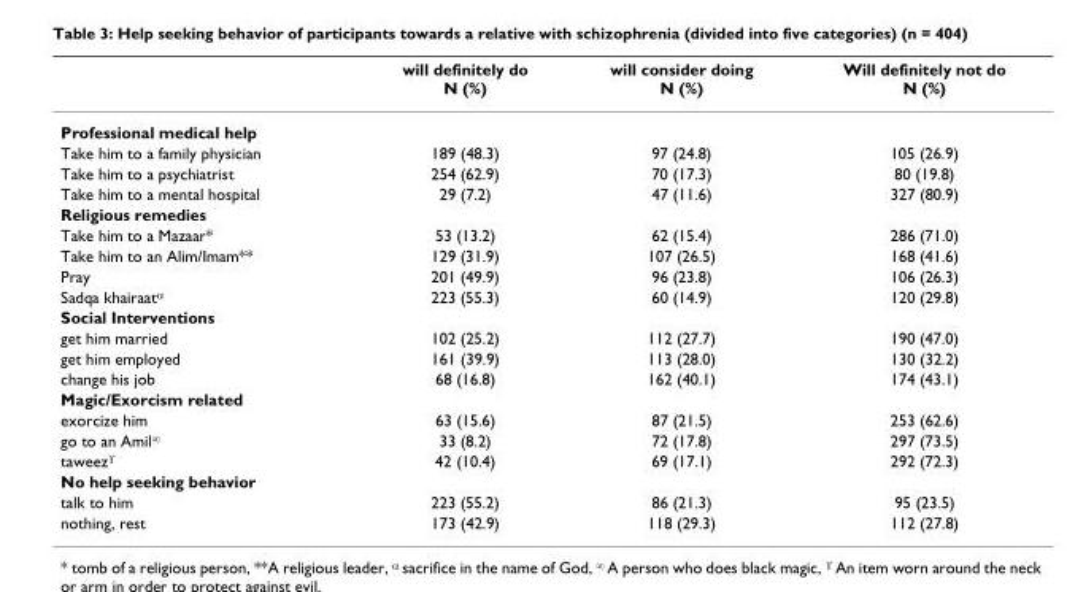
<table><thead><tr><td></td><td>will definitely do N (%)</td><td>will consider doing N (%)</td><td>Will definitely not do N (%)</td></tr></thead><tbody><tr><td colspan="4">Professional medical help</td></tr><tr><td>Take him to a family physician</td><td>189 (48.3)</td><td>97 (24.8)</td><td>105 (26.9)</td></tr><tr><td>Take him to a psychiatrist</td><td>254 (62.9)</td><td>70 (17.3)</td><td>80 (19.8)</td></tr><tr><td>Take him to a mental hospital</td><td>29 (7.2)</td><td>47 (11.6)</td><td>327 (80.9)</td></tr><tr><td colspan="4">Religious remedies</td></tr><tr><td>Take him to a Mazaar*</td><td>53 (13.2)</td><td>62 (15.4)</td><td>286 (71.0)</td></tr><tr><td>Take him to an Alim/Imam**</td><td>129 (31.9)</td><td>107 (26.5)</td><td>168 (41.6)</td></tr><tr><td>Pray</td><td>201 (49.9)</td><td>96 (23.8)</td><td>106 (26.3)</td></tr><tr><td>Sadqa khairaat<sup>α</sup></td><td>223 (55.3)</td><td>60 (14.9)</td><td>120 (29.8)</td></tr><tr><td colspan="4">Social Interventions</td></tr><tr><td>get him married</td><td>102 (25.2)</td><td>112 (27.7)</td><td>190 (47.0)</td></tr><tr><td>get him employed</td><td>161 (39.9)</td><td>113 (28.0)</td><td>130 (32.2)</td></tr><tr><td>change his job</td><td>68 (16.8)</td><td>162 (40.1)</td><td>174 (43.1)</td></tr><tr><td colspan="4">Magic/Exorcism related</td></tr><tr><td>exorcize him</td><td>63 (15.6)</td><td>87 (21.5)</td><td>253 (62.6)</td></tr><tr><td>go to an Amil<sup>∞</sup></td><td>33 (8.2)</td><td>72 (17.8)</td><td>297 (73.5)</td></tr><tr><td>taweez<sup>ϒ</sup></td><td>42 (10.4)</td><td>69 (17.1)</td><td>292 (72.3)</td></tr><tr><td colspan="4">No help seeking behavior</td></tr><tr><td>talk to him</td><td>223 (55.2)</td><td>86 (21.3)</td><td>95 (23.5)</td></tr><tr><td>nothing, rest</td><td>173 (42.9)</td><td>118 (29.3)</td><td>112 (27.8)</td></tr></tbody></table>